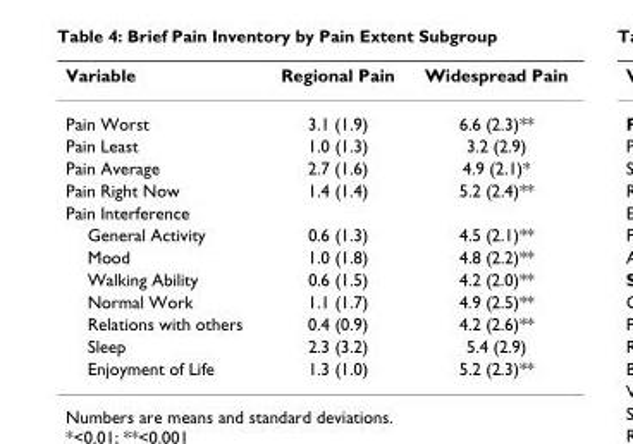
<table><thead><tr><td>Variable</td><td>Regional Pain</td><td>Widespread Pain</td></tr></thead><tbody><tr><td>Pain Worst</td><td>3.1 (1.9)</td><td>6.6 (2.3)**</td></tr><tr><td>Pain Least</td><td>1.0 (1.3)</td><td>3.2 (2.9)</td></tr><tr><td>Pain Average</td><td>2.7 (1.6)</td><td>4.9 (2.1)*</td></tr><tr><td>Pain Right Now</td><td>1.4 (1.4)</td><td>5.2 (2.4)**</td></tr><tr><td colspan="3">Pain Interference</td></tr><tr><td>General Activity</td><td>0.6 (1.3)</td><td>4.5 (2.1)**</td></tr><tr><td>Mood</td><td>1.0 (1.8)</td><td>4.8 (2.2)**</td></tr><tr><td>Walking Ability</td><td>0.6 (1.5)</td><td>4.2 (2.0)**</td></tr><tr><td>Normal Work</td><td>1.1 (1.7)</td><td>4.9 (2.5)**</td></tr><tr><td>Relations with others</td><td>0.4 (0.9)</td><td>4.2 (2.6)**</td></tr><tr><td>Sleep</td><td>2.3 (3.2)</td><td>5.4 (2.9)</td></tr><tr><td>Enjoyment of Life</td><td>1.3 (1.0)</td><td>5.2 (2.3)**</td></tr></tbody></table>